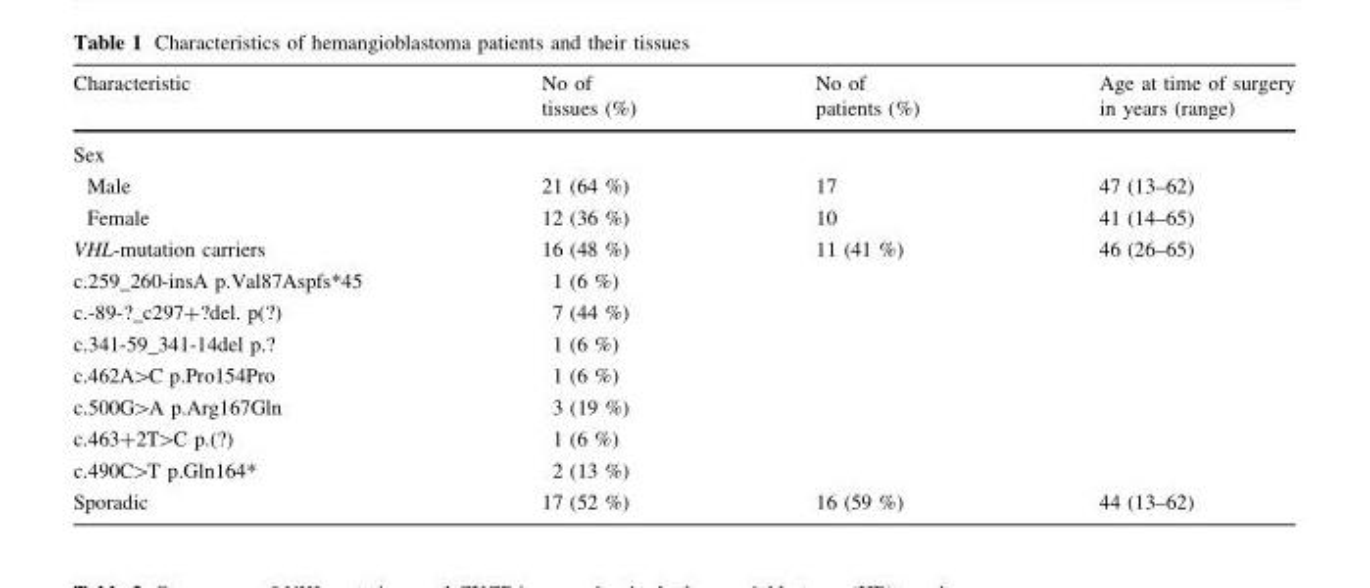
<table><thead><tr><td>Characteristic</td><td>No of tissues (%)</td><td>No of patients (%)</td><td>Age at time of surgery in years (range)</td></tr></thead><tbody><tr><td colspan="4">Sex</td></tr><tr><td>Male</td><td>21 (64 %)</td><td>17</td><td>47 (13–62)</td></tr><tr><td>Female</td><td>12 (36 %)</td><td>10</td><td>41 (14–65)</td></tr><tr><td>VHL-mutation carriers</td><td>16 (48 %)</td><td>11 (41 %)</td><td>46 (26–65)</td></tr><tr><td>c.259_260-insA p.Val87Aspfs*45</td><td>1 (6 %)</td><td></td><td></td></tr><tr><td>c.-89-?_c297+?del. p(?)</td><td>7 (44 %)</td><td></td><td></td></tr><tr><td>c.341-59_341-14del p.?</td><td>1 (6 %)</td><td></td><td></td></tr><tr><td>c.462A&gt;C p.Pro154Pro</td><td>1 (6 %)</td><td></td><td></td></tr><tr><td>c.500G&gt;A p.Arg167Gln</td><td>3 (19 %)</td><td></td><td></td></tr><tr><td>c.463+2T&gt;C p.(?)</td><td>1 (6 %)</td><td></td><td></td></tr><tr><td>c.490C&gt;T p.Gln164*</td><td>2 (13 %)</td><td></td><td></td></tr><tr><td>Sporadic</td><td>17 (52 %)</td><td>16 (59 %)</td><td>44 (13–62)</td></tr></tbody></table>